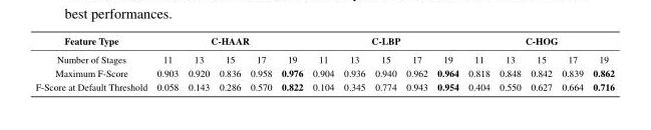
<table><thead><tr><td rowspan="2">Feature Type Number of Stages</td><td colspan="5">C-HAAR</td><td colspan="5">C-LBP</td><td colspan="5">C-HOG</td></tr><tr><td>11</td><td>13</td><td>15</td><td>17</td><td>19</td><td>11</td><td>13</td><td>15</td><td>17</td><td>19</td><td>11</td><td>13</td><td>15</td><td>17</td><td>19</td></tr></thead><tbody><tr><td>Maximum F-Score</td><td>0.903</td><td>0.920</td><td>0.836</td><td>0.958</td><td>0.976</td><td>0.904</td><td>0.936</td><td>0.940</td><td>0.962</td><td>0.964</td><td>0.818</td><td>0.848</td><td>0.842</td><td>0.839</td><td>0.862</td></tr><tr><td>F-Score at Default Threshold</td><td>0.058</td><td>0.143</td><td>0.286</td><td>0.570</td><td>0.822</td><td>0.104</td><td>0.345</td><td>0.774</td><td>0.943</td><td>0.954</td><td>0.404</td><td>0.550</td><td>0.627</td><td>0.664</td><td>0.716</td></tr></tbody></table>